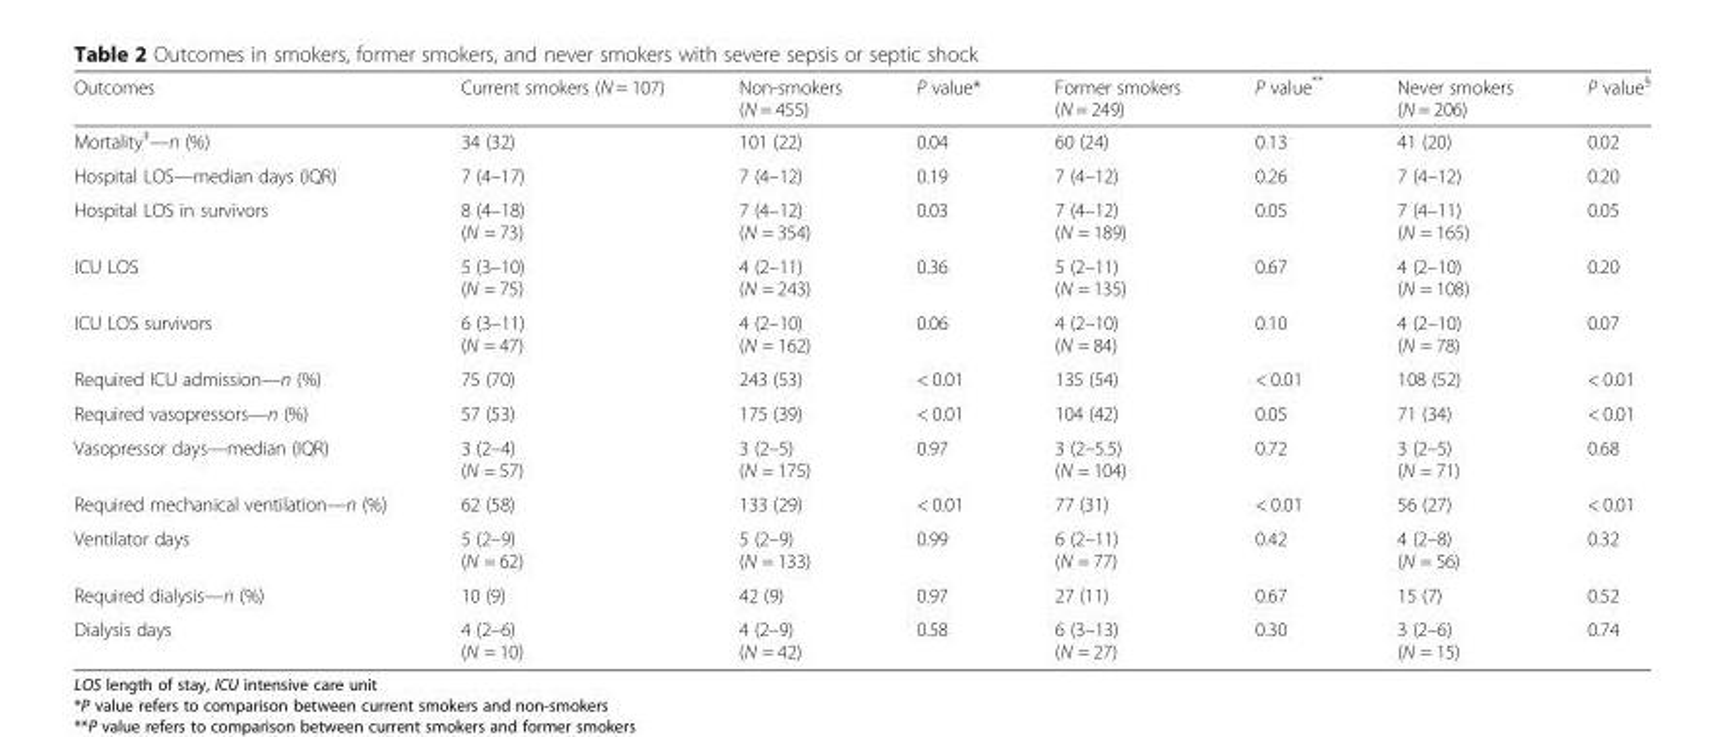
<table><thead><tr><td>Outcomes</td><td>Current smokers (N = 107)</td><td>Non-smokers (N = 455)</td><td>P value*</td><td>Former smokers (N = 249)</td><td>P value**</td><td>Never smokers (N = 206)</td><td>P value<sup>§</sup></td></tr></thead><tbody><tr><td>Mortality<sup>‡</sup>—n (%)</td><td>34 (32)</td><td>101 (22)</td><td>0.04</td><td>60 (24)</td><td>0.13</td><td>41 (20)</td><td>0.02</td></tr><tr><td>Hospital LOS—median days (IQR)</td><td>7 (4–17)</td><td>7 (4–12)</td><td>0.19</td><td>7 (4–12)</td><td>0.26</td><td>7 (4–12)</td><td>0.20</td></tr><tr><td>Hospital LOS in survivors</td><td>8 (4–18) (N = 73)</td><td>7 (4–12) (N = 354)</td><td>0.03</td><td>7 (4–12) (N = 189)</td><td>0.05</td><td>7 (4–11) (N = 165)</td><td>0.05</td></tr><tr><td>ICU LOS</td><td>5 (3–10) (N = 75)</td><td>4 (2–11) (N = 243)</td><td>0.36</td><td>5 (2–11) (N = 135)</td><td>0.67</td><td>4 (2–10) (N = 108)</td><td>0.20</td></tr><tr><td>ICU LOS survivors</td><td>6 (3–11) (N = 47)</td><td>4 (2–10) (N = 162)</td><td>0.06</td><td>4 (2–10) (N = 84)</td><td>0.10</td><td>4 (2–10) (N = 78)</td><td>0.07</td></tr><tr><td>Required ICU admission—n (%)</td><td>75 (70)</td><td>243 (53)</td><td>&lt; 0.01</td><td>135 (54)</td><td>&lt; 0.01</td><td>108 (52)</td><td>&lt; 0.01</td></tr><tr><td>Required vasopressors—n (%)</td><td>57 (53)</td><td>175 (39)</td><td>&lt; 0.01</td><td>104 (42)</td><td>0.05</td><td>71 (34)</td><td>&lt; 0.01</td></tr><tr><td>Vasopressor days—median (IQR)</td><td>3 (2–4) (N = 57)</td><td>3 (2–5) (N = 175)</td><td>0.97</td><td>3 (2–5.5) (N = 104)</td><td>0.72</td><td>3 (2–5) (N = 71)</td><td>0.68</td></tr><tr><td>Required mechanical ventilation—n (%)</td><td>62 (58)</td><td>133 (29)</td><td>&lt; 0.01</td><td>77 (31)</td><td>&lt; 0.01</td><td>56 (27)</td><td>&lt; 0.01</td></tr><tr><td>Ventilator days</td><td>5 (2–9) (N = 62)</td><td>5 (2–9) (N = 133)</td><td>0.99</td><td>6 (2–11) (N = 77)</td><td>0.42</td><td>4 (2–8) (N = 56)</td><td>0.32</td></tr><tr><td>Required dialysis—n (%)</td><td>10 (9)</td><td>42 (9)</td><td>0.97</td><td>27 (11)</td><td>0.67</td><td>15 (7)</td><td>0.52</td></tr><tr><td>Dialysis days</td><td>4 (2–6) (N = 10)</td><td>4 (2–9) (N = 42)</td><td>0.58</td><td>6 (3–13) (N = 27)</td><td>0.30</td><td>3 (2–6) (N = 15)</td><td>0.74</td></tr></tbody></table>